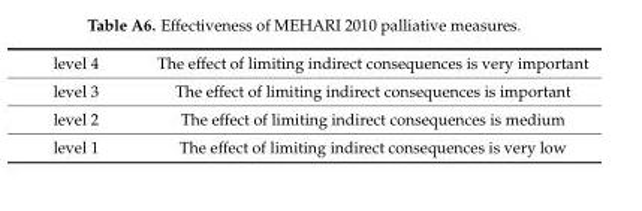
<table><tbody><tr><td>level 4</td><td>The effect of limiting indirect consequences is very important</td></tr><tr><td>level 3</td><td>The effect of limiting indirect consequences is important</td></tr><tr><td>level 2</td><td>The effect of limiting indirect consequences is medium</td></tr><tr><td>level 1</td><td>The effect of limiting indirect consequences is very low</td></tr></tbody></table>